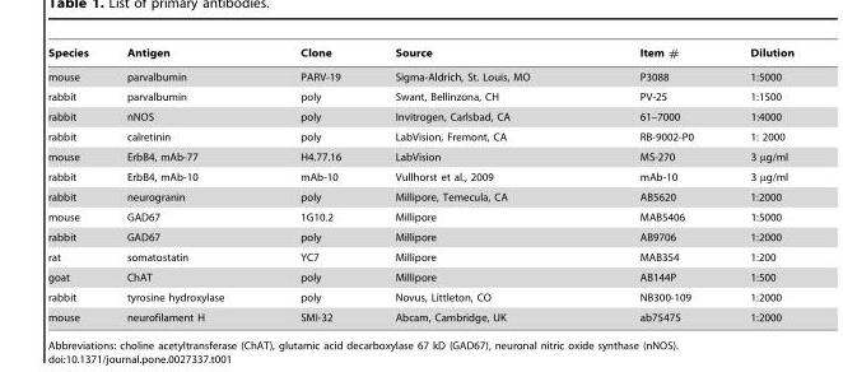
<table><thead><tr><td>Species</td><td>Antigen</td><td>Clone</td><td>Source</td><td>Item #</td><td>Dilution</td></tr></thead><tbody><tr><td>mouse</td><td>parvalbumin</td><td>PARV-19</td><td>Sigma-Aldrich, St. Louis, MO</td><td>P3088</td><td>1:5000</td></tr><tr><td>rabbit</td><td>parvalbumin</td><td>poly</td><td>Swant, Bellinzona, CH</td><td>PV-25</td><td>1:1500</td></tr><tr><td>rabbit</td><td>nNOS</td><td>poly</td><td>Invitrogen, Carlsbad, CA</td><td>61–7000</td><td>1:4000</td></tr><tr><td>rabbit</td><td>calretinin</td><td>poly</td><td>LabVision, Fremont, CA</td><td>RB-9002-P0</td><td>1: 2000</td></tr><tr><td>mouse</td><td>ErbB4, mAb-77</td><td>H4.77.16</td><td>LabVision</td><td>MS-270</td><td>3 µg/ml</td></tr><tr><td>rabbit</td><td>ErbB4, mAb-10</td><td>mAb-10</td><td>Vullhorst et al., 2009</td><td>mAb-10</td><td>3 µg/ml</td></tr><tr><td>rabbit</td><td>neurogranin</td><td>poly</td><td>Millipore, Temecula, CA</td><td>AB5620</td><td>1:2000</td></tr><tr><td>mouse</td><td>GAD67</td><td>1G10.2</td><td>Millipore</td><td>MAB5406</td><td>1:5000</td></tr><tr><td>rabbit</td><td>GAD67</td><td>poly</td><td>Millipore</td><td>AB9706</td><td>1:2000</td></tr><tr><td>rat</td><td>somatostatin</td><td>YC7</td><td>Millipore</td><td>MAB354</td><td>1:200</td></tr><tr><td>goat</td><td>ChAT</td><td>poly</td><td>Millipore</td><td>AB144P</td><td>1:500</td></tr><tr><td>rabbit</td><td>tyrosine hydroxylase</td><td>poly</td><td>Novus, Littleton, CO</td><td>NB300-109</td><td>1:2000</td></tr><tr><td>mouse</td><td>neurofilament H</td><td>SMI-32</td><td>Abcam, Cambridge, UK</td><td>ab75475</td><td>1:2000</td></tr></tbody></table>